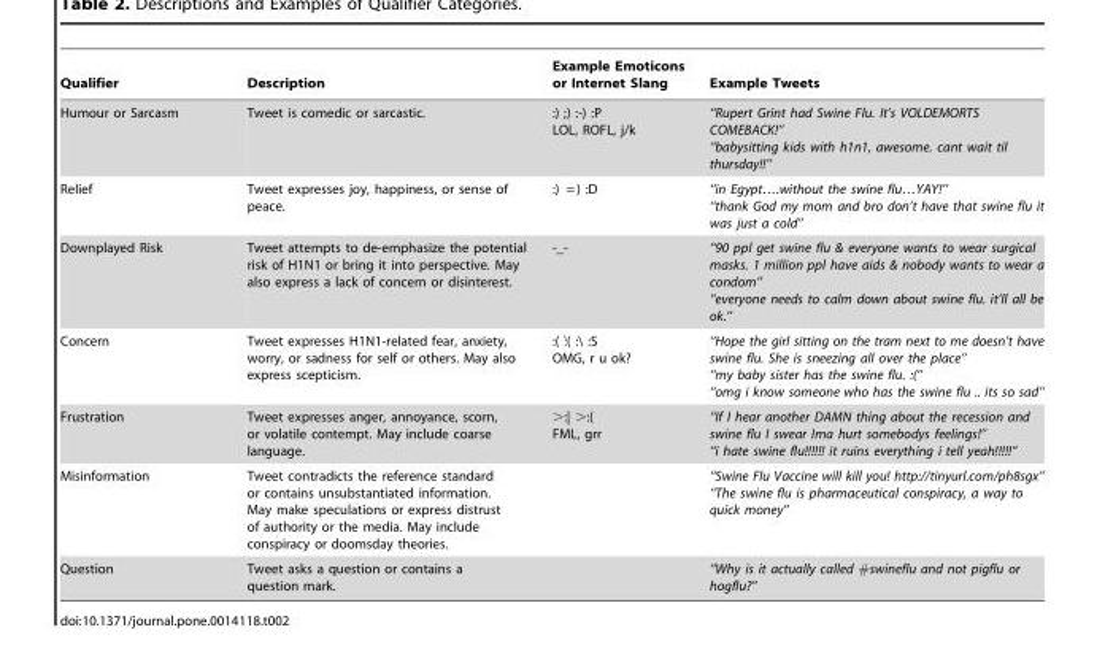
<table><thead><tr><td>Qualifier</td><td>Description</td><td>Example Emoticons or Internet Slang</td><td>Example Tweets</td></tr></thead><tbody><tr><td>Humour or Sarcasm</td><td>Tweet is comedic or sarcastic.</td><td>:) ;) :-) :P LOL, ROFL, j/k</td><td>‘‘Rupert Grint had Swine Flu. It’s VOLDEMORTS COMEBACK!’’ ‘‘babysitting kids with h1n1, awesome. cant wait til thursday!!’’</td></tr><tr><td>Relief</td><td>Tweet expresses joy, happiness, or sense of peace.</td><td>:) = ) :D</td><td>‘‘in Egypt….without the swine flu…YAY!’’ ‘‘thank God my mom and bro don’t have that swine flu it was just a cold’’</td></tr><tr><td>Downplayed Risk</td><td>Tweet attempts to de-emphasize the potential risk of H1N1 or bring it into perspective. May also express a lack of concern or disinterest.</td><td>-_-</td><td>‘‘90 ppl get swine flu &amp; everyone wants to wear surgical masks. 1 million ppl have aids &amp; nobody wants to wear a condom’’ ‘‘everyone needs to calm down about swine flu. it’ll all be ok.’’</td></tr><tr><td>Concern</td><td>Tweet expresses H1N1-related fear, anxiety, worry, or sadness for self or others. May also express scepticism.</td><td>:( :`( :\ :S OMG, r u ok?</td><td>‘‘Hope the girl sitting on the tram next to me doesn’t have swine flu. She is sneezing all over the place’’ ‘‘my baby sister has the swine flu. :(’’ ‘‘omg i know someone who has the swine flu .. its so sad’’</td></tr><tr><td>Frustration</td><td>Tweet expresses anger, annoyance, scorn, or volatile contempt. May include coarse language.</td><td>&gt;:| &gt;:( FML, grr</td><td>‘‘If I hear another DAMN thing about the recession and swine flu I swear Ima hurt somebodys feelings!’’ ‘‘i hate swine flu!!!!!! it ruins everything i tell yeah!!!!!’’</td></tr><tr><td>Misinformation</td><td>Tweet contradicts the reference standard or contains unsubstantiated information. May make speculations or express distrust of authority or the media. May include conspiracy or doomsday theories.</td><td></td><td>‘‘Swine Flu Vaccine will kill you! http://tinyurl.com/ph8sgx’’ ‘‘The swine flu is pharmaceutical conspiracy, a way to quick money’’</td></tr><tr><td>Question</td><td>Tweet asks a question or contains a question mark.</td><td></td><td>‘‘Why is it actually called #swineflu and not pigflu or hogflu?’’</td></tr></tbody></table>